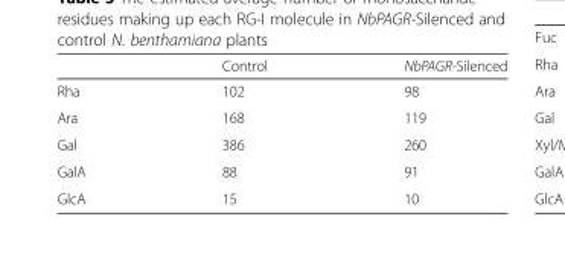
<table><thead><tr><td></td><td>Control</td><td>NbPAGR-Silenced</td></tr></thead><tbody><tr><td>Rha</td><td>102</td><td>98</td></tr><tr><td>Ara</td><td>168</td><td>119</td></tr><tr><td>Gal</td><td>386</td><td>260</td></tr><tr><td>GalA</td><td>88</td><td>91</td></tr><tr><td>GlcA</td><td>15</td><td>10</td></tr></tbody></table>